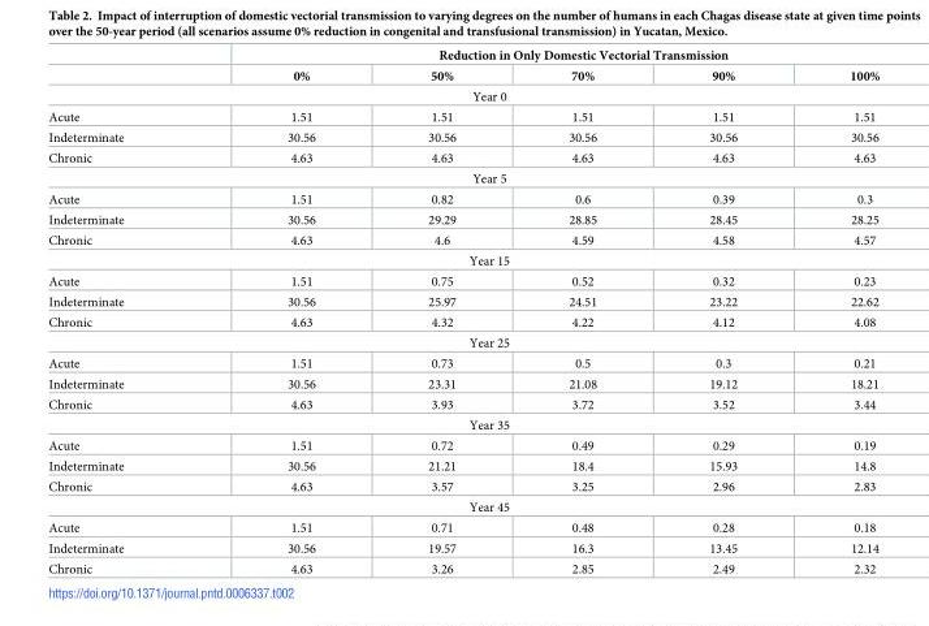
<table><thead><tr><td rowspan="2"></td><td colspan="5">Reduction in Only Domestic Vectorial Transmission</td></tr><tr><td>0%</td><td>50%</td><td>70%</td><td>90%</td><td>100%</td></tr></thead><tbody><tr><td colspan="6">Year 0</td></tr><tr><td>Acute</td><td>1.51</td><td>1.51</td><td>1.51</td><td>1.51</td><td>1.51</td></tr><tr><td>Indeterminate</td><td>30.56</td><td>30.56</td><td>30.56</td><td>30.56</td><td>30.56</td></tr><tr><td>Chronic</td><td>4.63</td><td>4.63</td><td>4.63</td><td>4.63</td><td>4.63</td></tr><tr><td colspan="6">Year 5</td></tr><tr><td>Acute</td><td>1.51</td><td>0.82</td><td>0.6</td><td>0.39</td><td>0.3</td></tr><tr><td>Indeterminate</td><td>30.56</td><td>29.29</td><td>28.85</td><td>28.45</td><td>28.25</td></tr><tr><td>Chronic</td><td>4.63</td><td>4.6</td><td>4.59</td><td>4.58</td><td>4.57</td></tr><tr><td colspan="6">Year 15</td></tr><tr><td>Acute</td><td>1.51</td><td>0.75</td><td>0.52</td><td>0.32</td><td>0.23</td></tr><tr><td>Indeterminate</td><td>30.56</td><td>25.97</td><td>24.51</td><td>23.22</td><td>22.62</td></tr><tr><td>Chronic</td><td>4.63</td><td>4.32</td><td>4.22</td><td>4.12</td><td>4.08</td></tr><tr><td colspan="6">Year 25</td></tr><tr><td>Acute</td><td>1.51</td><td>0.73</td><td>0.5</td><td>0.3</td><td>0.21</td></tr><tr><td>Indeterminate</td><td>30.56</td><td>23.31</td><td>21.08</td><td>19.12</td><td>18.21</td></tr><tr><td>Chronic</td><td>4.63</td><td>3.93</td><td>3.72</td><td>3.52</td><td>3.44</td></tr><tr><td colspan="6">Year 35</td></tr><tr><td>Acute</td><td>1.51</td><td>0.72</td><td>0.49</td><td>0.29</td><td>0.19</td></tr><tr><td>Indeterminate</td><td>30.56</td><td>21.21</td><td>18.4</td><td>15.93</td><td>14.8</td></tr><tr><td>Chronic</td><td>4.63</td><td>3.57</td><td>3.25</td><td>2.96</td><td>2.83</td></tr><tr><td colspan="6">Year 45</td></tr><tr><td>Acute</td><td>1.51</td><td>0.71</td><td>0.48</td><td>0.28</td><td>0.18</td></tr><tr><td>Indeterminate</td><td>30.56</td><td>19.57</td><td>16.3</td><td>13.45</td><td>12.14</td></tr><tr><td>Chronic</td><td>4.63</td><td>3.26</td><td>2.85</td><td>2.49</td><td>2.32</td></tr></tbody></table>